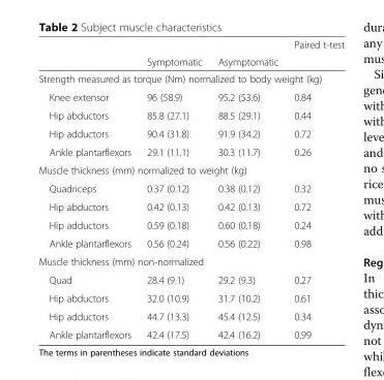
<table><thead><tr><td rowspan="2"></td><td rowspan="2">Symptomatic</td><td rowspan="2">Asymptomatic</td><td rowspan="2">Paired t-test</td></tr><tr></tr></thead><tbody><tr><td colspan="4">Strength measured as torque (Nm) normalized to body weight (kg)</td></tr><tr><td>Knee extensor</td><td>96 (58.9)</td><td>95.2 (53.6)</td><td>0.84</td></tr><tr><td>Hip abductors</td><td>85.8 (27.1)</td><td>88.5 (29.1)</td><td>0.44</td></tr><tr><td>Hip adductors</td><td>90.4 (31.8)</td><td>91.9 (34.2)</td><td>0.72</td></tr><tr><td>Ankle plantarflexors</td><td>29.1 (11.1)</td><td>30.3 (11.7)</td><td>0.26</td></tr><tr><td colspan="4">Muscle thickness (mm) normalized to weight (kg)</td></tr><tr><td>Quadriceps</td><td>0.37 (0.12)</td><td>0.38 (0.12)</td><td>0.32</td></tr><tr><td>Hip abductors</td><td>0.42 (0.13)</td><td>0.42 (0.13)</td><td>0.72</td></tr><tr><td>Hip adductors</td><td>0.59 (0.18)</td><td>0.60 (0.18)</td><td>0.24</td></tr><tr><td>Ankle plantarflexors</td><td>0.56 (0.24)</td><td>0.56 (0.22)</td><td>0.98</td></tr><tr><td colspan="4">Muscle thickness (mm) non-normalized</td></tr><tr><td>Quad</td><td>28.4 (9.1)</td><td>29.2 (9.3)</td><td>0.27</td></tr><tr><td>Hip abductors</td><td>32.0 (10.9)</td><td>31.7 (10.2)</td><td>0.61</td></tr><tr><td>Hip adductors</td><td>44.7 (13.3)</td><td>45.4 (12.5)</td><td>0.34</td></tr><tr><td>Ankle plantarflexors</td><td>42.4 (17.5)</td><td>42.4 (16.2)</td><td>0.99</td></tr></tbody></table>